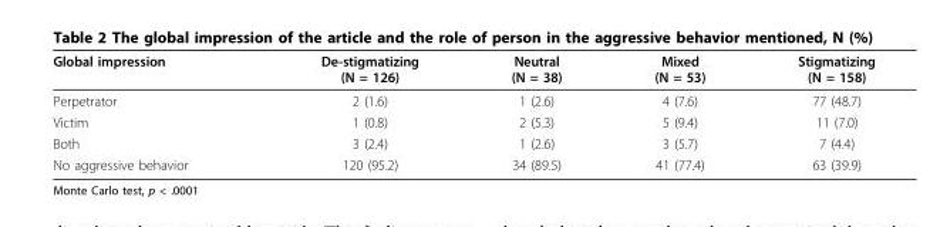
<table><thead><tr><td>Global impression</td><td>De-stigmatizing (N = 126)</td><td>Neutral (N = 38)</td><td>Mixed (N = 53)</td><td>Stigmatizing (N = 158)</td></tr></thead><tbody><tr><td>Perpetrator</td><td>2 (1.6)</td><td>1 (2.6)</td><td>4 (7.6)</td><td>77 (48.7)</td></tr><tr><td>Victim</td><td>1 (0.8)</td><td>2 (5.3)</td><td>5 (9.4)</td><td>11 (7.0)</td></tr><tr><td>Both</td><td>3 (2.4)</td><td>1 (2.6)</td><td>3 (5.7)</td><td>7 (4.4)</td></tr><tr><td>No aggressive behavior</td><td>120 (95.2)</td><td>34 (89.5)</td><td>41 (77.4)</td><td>63 (39.9)</td></tr></tbody></table>